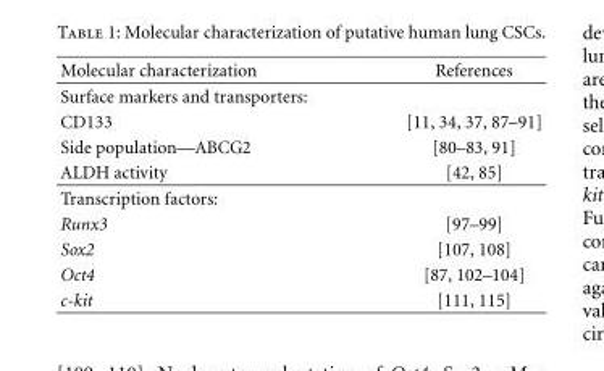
<table><thead><tr><td>Molecular characterization</td><td>References</td></tr></thead><tbody><tr><td colspan="2">Surface markers and transporters:</td></tr><tr><td>CD133</td><td>[11, 34, 37, 87–91]</td></tr><tr><td>Side population—ABCG2</td><td>[80–83, 91]</td></tr><tr><td>ALDH activity</td><td>[42, 85]</td></tr><tr><td colspan="2">Transcription factors:</td></tr><tr><td>Runx3</td><td>[97–99]</td></tr><tr><td>Sox2</td><td>[107, 108]</td></tr><tr><td>Oct4</td><td>[87, 102–104]</td></tr><tr><td>c-kit</td><td>[111, 115]</td></tr></tbody></table>